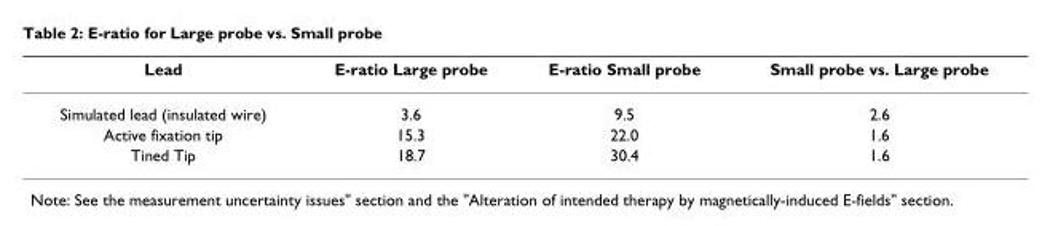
<table><thead><tr><td>Lead</td><td>E-ratio Large probe</td><td>E-ratio Small probe</td><td>Small probe vs. Large probe</td></tr></thead><tbody><tr><td>Simulated lead (insulated wire)</td><td>3.6</td><td>9.5</td><td>2.6</td></tr><tr><td>Active fixation tip</td><td>15.3</td><td>22.0</td><td>1.6</td></tr><tr><td>Tined Tip</td><td>18.7</td><td>30.4</td><td>1.6</td></tr></tbody></table>